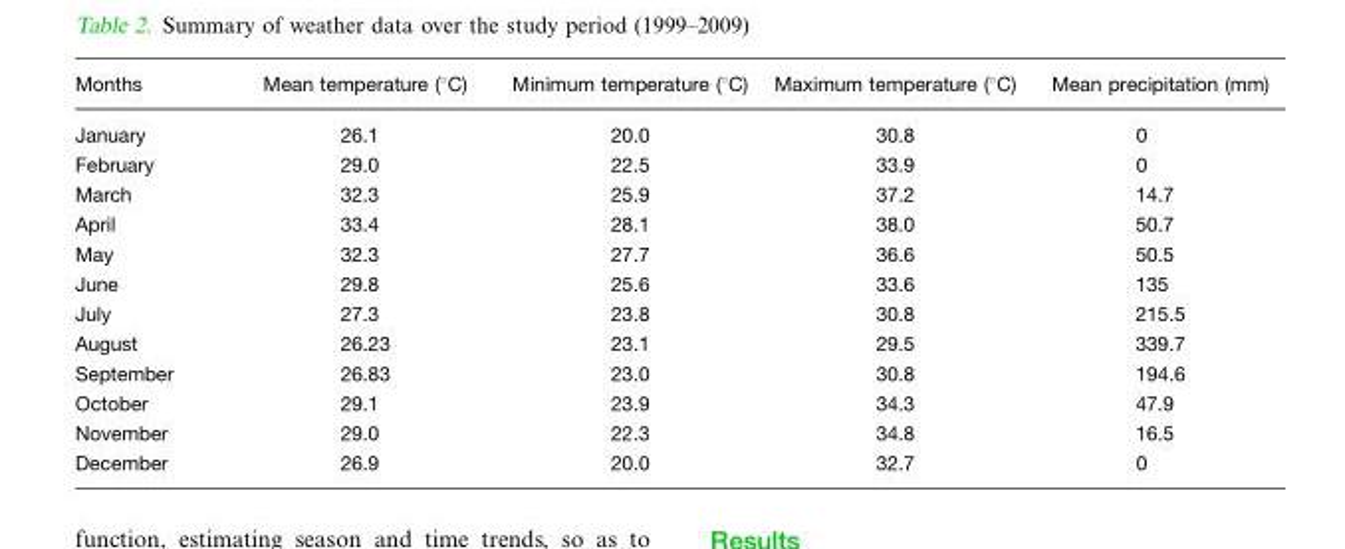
<table><thead><tr><td>Months</td><td>Mean temperature (°C)</td><td>Minimum temperature (°C)</td><td>Maximum temperature (°C)</td><td>Mean precipitation (mm)</td></tr></thead><tbody><tr><td>January</td><td>26.1</td><td>20.0</td><td>30.8</td><td>0</td></tr><tr><td>February</td><td>29.0</td><td>22.5</td><td>33.9</td><td>0</td></tr><tr><td>March</td><td>32.3</td><td>25.9</td><td>37.2</td><td>14.7</td></tr><tr><td>April</td><td>33.4</td><td>28.1</td><td>38.0</td><td>50.7</td></tr><tr><td>May</td><td>32.3</td><td>27.7</td><td>36.6</td><td>50.5</td></tr><tr><td>June</td><td>29.8</td><td>25.6</td><td>33.6</td><td>135</td></tr><tr><td>July</td><td>27.3</td><td>23.8</td><td>30.8</td><td>215.5</td></tr><tr><td>August</td><td>26.23</td><td>23.1</td><td>29.5</td><td>339.7</td></tr><tr><td>September</td><td>26.83</td><td>23.0</td><td>30.8</td><td>194.6</td></tr><tr><td>October</td><td>29.1</td><td>23.9</td><td>34.3</td><td>47.9</td></tr><tr><td>November</td><td>29.0</td><td>22.3</td><td>34.8</td><td>16.5</td></tr><tr><td>December</td><td>26.9</td><td>20.0</td><td>32.7</td><td>0</td></tr></tbody></table>